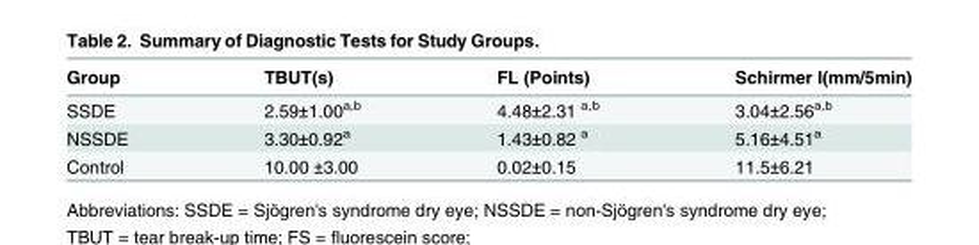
<table><thead><tr><td>Group</td><td>TBUT(s)</td><td>FL (Points)</td><td>Schirmer I(mm/5min)</td></tr></thead><tbody><tr><td>SSDE</td><td>2.59±1.00<sup>a,b</sup></td><td>4.48±2.31 <sup>a,b</sup></td><td>3.04±2.56<sup>a,b</sup></td></tr><tr><td>NSSDE</td><td>3.30±0.92<sup>a</sup></td><td>1.43±0.82 <sup>a</sup></td><td>5.16±4.51<sup>a</sup></td></tr><tr><td>Control</td><td>10.00 ±3.00</td><td>0.02±0.15</td><td>11.5±6.21</td></tr></tbody></table>